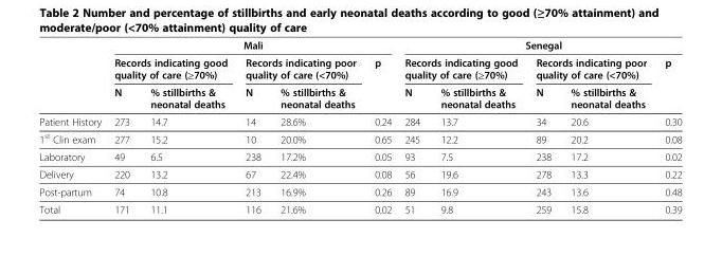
<table><thead><tr><td rowspan="3"></td><td colspan="5">Mali</td><td colspan="5">Senegal</td></tr><tr><td colspan="2">Records indicating good quality of care (≥70%)</td><td colspan="2">Records indicating poor quality of care (&lt;70%)</td><td rowspan="2">p</td><td colspan="2">Records indicating good quality of care (≥70%)</td><td colspan="2">Records indicating poor quality of care (&lt;70%)</td><td rowspan="2">p</td></tr><tr><td>N</td><td>% stillbirths &amp; neonatal deaths</td><td>N</td><td>% stillbirths &amp; neonatal deaths</td><td>N</td><td>% stillbirths &amp; neonatal deaths</td><td>N</td><td>% stillbirths &amp; neonatal deaths</td></tr></thead><tbody><tr><td>Patient History</td><td>273</td><td>14.7</td><td>14</td><td>28.6%</td><td>0.24</td><td>284</td><td>13.7</td><td>34</td><td>20.6</td><td>0.30</td></tr><tr><td>1<sup>st</sup> Clin exam</td><td>277</td><td>15.2</td><td>10</td><td>20.0%</td><td>0.65</td><td>245</td><td>12.2</td><td>89</td><td>20.2</td><td>0.08</td></tr><tr><td>Laboratory</td><td>49</td><td>6.5</td><td>238</td><td>17.2%</td><td>0.05</td><td>93</td><td>7.5</td><td>238</td><td>17.2</td><td>0.02</td></tr><tr><td>Delivery</td><td>220</td><td>13.2</td><td>67</td><td>22.4%</td><td>0.08</td><td>56</td><td>19.6</td><td>278</td><td>13.3</td><td>0.22</td></tr><tr><td>Post-partum</td><td>74</td><td>10.8</td><td>213</td><td>16.9%</td><td>0.26</td><td>89</td><td>16.9</td><td>243</td><td>13.6</td><td>0.48</td></tr><tr><td>Total</td><td>171</td><td>11.1</td><td>116</td><td>21.6%</td><td>0.02</td><td>51</td><td>9.8</td><td>259</td><td>15.8</td><td>0.39</td></tr></tbody></table>